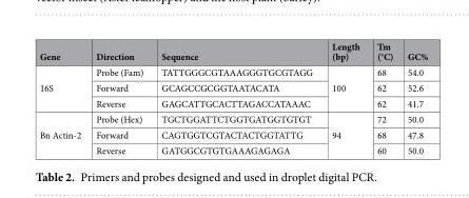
<table><thead><tr><td>Gene</td><td>Direction</td><td>Sequence</td><td>Length (bp)</td><td>Tm (°C)</td><td>GC%</td></tr></thead><tbody><tr><td rowspan="3">16S</td><td>Probe (Fam)</td><td>TATTGGGCGTAAAGGGTGCGTAGG</td><td rowspan="3">100</td><td>68</td><td>54.0</td></tr><tr><td>Forward</td><td>GCAGCCGCGGTAATACATA</td><td>62</td><td>52.6</td></tr><tr><td>Reverse</td><td>GAGCATTGCACTTAGACCATAAAC</td><td>62</td><td>41.7</td></tr><tr><td rowspan="3">Bn Actin-2</td><td>Probe (Hex)</td><td>TGCTGGATTCTGGTGATGGTGTGT</td><td rowspan="3">94</td><td>72</td><td>50.0</td></tr><tr><td>Forward</td><td>CAGTGGTCGTACTACTGGTATTG</td><td>68</td><td>47.8</td></tr><tr><td>Reverse</td><td>GATGGCGTGTGAAAGAGAGA</td><td>60</td><td>50.0</td></tr></tbody></table>